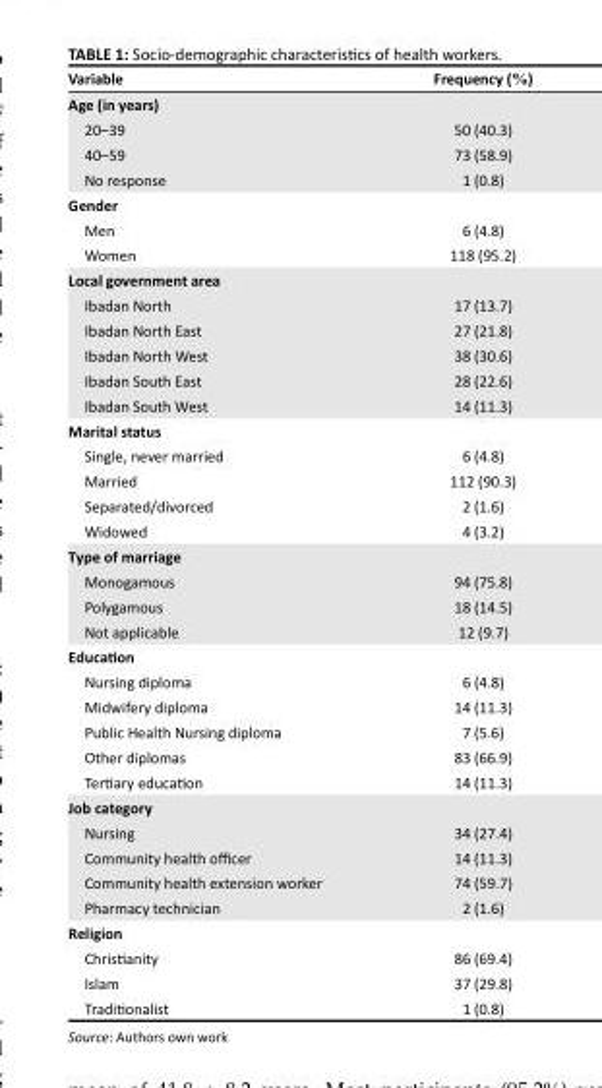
<table><thead><tr><td>Variable</td><td>Frequency (%)</td></tr></thead><tbody><tr><td colspan="2">Age (in years)</td></tr><tr><td>20–39</td><td>50 (40.3)</td></tr><tr><td>40–59</td><td>73 (58.9)</td></tr><tr><td>No response</td><td>1 (0.8)</td></tr><tr><td colspan="2">Gender</td></tr><tr><td>Men</td><td>6 (4.8)</td></tr><tr><td>Women</td><td>118 (95.2)</td></tr><tr><td colspan="2">Local government area</td></tr><tr><td>Ibadan North</td><td>17 (13.7)</td></tr><tr><td>Ibadan North East</td><td>27 (21.8)</td></tr><tr><td>Ibadan North West</td><td>38 (30.6)</td></tr><tr><td>Ibadan South East</td><td>28 (22.6)</td></tr><tr><td>Ibadan South West</td><td>14 (11.3)</td></tr><tr><td colspan="2">Marital status</td></tr><tr><td>Single, never married</td><td>6 (4.8)</td></tr><tr><td>Married</td><td>112 (90.3)</td></tr><tr><td>Separated/divorced</td><td>2 (1.6)</td></tr><tr><td>Widowed</td><td>4 (3.2)</td></tr><tr><td colspan="2">Type of marriage</td></tr><tr><td>Monogamous</td><td>94 (75.8)</td></tr><tr><td>Polygamous</td><td>18 (14.5)</td></tr><tr><td>Not applicable</td><td>12 (9.7)</td></tr><tr><td colspan="2">Education</td></tr><tr><td>Nursing diploma</td><td>6 (4.8)</td></tr><tr><td>Midwifery diploma</td><td>14 (11.3)</td></tr><tr><td>Public Health Nursing diploma</td><td>7 (5.6)</td></tr><tr><td>Other diplomas</td><td>83 (66.9)</td></tr><tr><td>Tertiary education</td><td>14 (11.3)</td></tr><tr><td colspan="2">Job category</td></tr><tr><td>Nursing</td><td>34 (27.4)</td></tr><tr><td>Community health officer</td><td>14 (11.3)</td></tr><tr><td>Community health extension worker</td><td>74 (59.7)</td></tr><tr><td>Pharmacy technician</td><td>2 (1.6)</td></tr><tr><td colspan="2">Religion</td></tr><tr><td>Christianity</td><td>86 (69.4)</td></tr><tr><td>Islam</td><td>37 (29.8)</td></tr><tr><td>Traditionalist</td><td>1 (0.8)</td></tr></tbody></table>